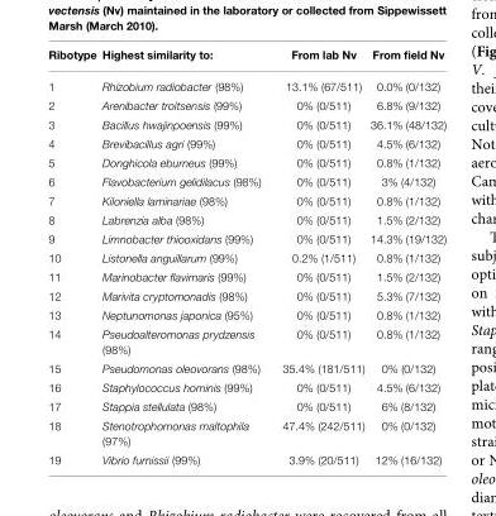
<table><thead><tr><td>Ribotype</td><td>Highest similarity to:</td><td>From lab Nv</td><td>From field Nv</td></tr></thead><tbody><tr><td>1</td><td>Rhizobium radiobacter (98%)</td><td>13.1% (67/511)</td><td>0.0% (0/132)</td></tr><tr><td>2</td><td>Arenibacter troitsensis (99%)</td><td>0% (0/511)</td><td>6.8% (9/132)</td></tr><tr><td>3</td><td>Bacillus hwajinpoensis (99%)</td><td>0% (0/511)</td><td>36.1% (48/132)</td></tr><tr><td>4</td><td>Brevibacillus agri (99%)</td><td>0% (0/511)</td><td>4.5% (6/132)</td></tr><tr><td>5</td><td>Donghicola eburneus (99%)</td><td>0% (0/511)</td><td>0.8% (1/132)</td></tr><tr><td>6</td><td>Flavobacterium gelidilacus (98%)</td><td>0% (0/511)</td><td>3% (4/132)</td></tr><tr><td>7</td><td>Kiloniella laminariae (98%)</td><td>0% (0/511)</td><td>0.8% (1/132)</td></tr><tr><td>8</td><td>Labrenzia alba (98%)</td><td>0% (0/511)</td><td>1.5% (2/132)</td></tr><tr><td>9</td><td>Limnobacter thiooxidans (99%)</td><td>0% (0/511)</td><td>14.3% (19/132)</td></tr><tr><td>10</td><td>Listonella anguillarum (99%)</td><td>0.2% (1/511)</td><td>0.8% (1/132)</td></tr><tr><td>11</td><td>Marinobacter flavimaris (99%)</td><td>0% (0/511)</td><td>1.5% (2/132)</td></tr><tr><td>12</td><td>Marivita cryptomonadis (98%)</td><td>0% (0/511)</td><td>5.3% (7/132)</td></tr><tr><td>13</td><td>Neptunomonas japonica (95%)</td><td>0% (0/511)</td><td>0.8% (1/132)</td></tr><tr><td>14</td><td>Pseudoalteromonas prydzensis (98%)</td><td>0% (0/511)</td><td>0.8% (1/132)</td></tr><tr><td>15</td><td>Pseudomonas oleovorans (98%)</td><td>35.4% (181/511)</td><td>0% (0/132)</td></tr><tr><td>16</td><td>Staphylococcus hominis (99%)</td><td>0% (0/511)</td><td>4.5% (6/132)</td></tr><tr><td>17</td><td>Stappia stellulata (98%)</td><td>0% (0/511)</td><td>6% (8/132)</td></tr><tr><td>18</td><td>Stenotrophomonas maltophila (97%)</td><td>47.4% (242/511)</td><td>0% (0/132)</td></tr><tr><td>19</td><td>Vibrio furnissii (99%)</td><td>3.9% (20/511)</td><td>12% (16/132)</td></tr></tbody></table>